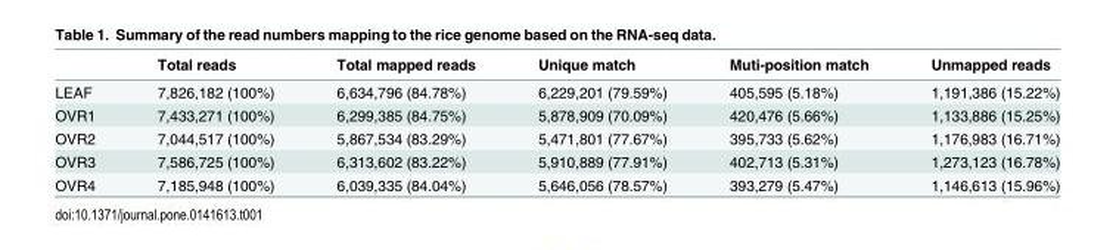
<table><thead><tr><td></td><td>Total reads</td><td>Total mapped reads</td><td>Unique match</td><td>Muti-position match</td><td>Unmapped reads</td></tr></thead><tbody><tr><td>LEAF</td><td>7,826,182 (100%)</td><td>6,634,796 (84.78%)</td><td>6,229,201 (79.59%)</td><td>405,595 (5.18%)</td><td>1,191,386 (15.22%)</td></tr><tr><td>OVR1</td><td>7,433,271 (100%)</td><td>6,299,385 (84.75%)</td><td>5,878,909 (70.09%)</td><td>420,476 (5.66%)</td><td>1,133,886 (15.25%)</td></tr><tr><td>OVR2</td><td>7,044,517 (100%)</td><td>5,867,534 (83.29%)</td><td>5,471,801 (77.67%)</td><td>395,733 (5.62%)</td><td>1,176,983 (16.71%)</td></tr><tr><td>OVR3</td><td>7,586,725 (100%)</td><td>6,313,602 (83.22%)</td><td>5,910,889 (77.91%)</td><td>402,713 (5.31%)</td><td>1,273,123 (16.78%)</td></tr><tr><td>OVR4</td><td>7,185,948 (100%)</td><td>6,039,335 (84.04%)</td><td>5,646,056 (78.57%)</td><td>393,279 (5.47%)</td><td>1,146,613 (15.96%)</td></tr></tbody></table>